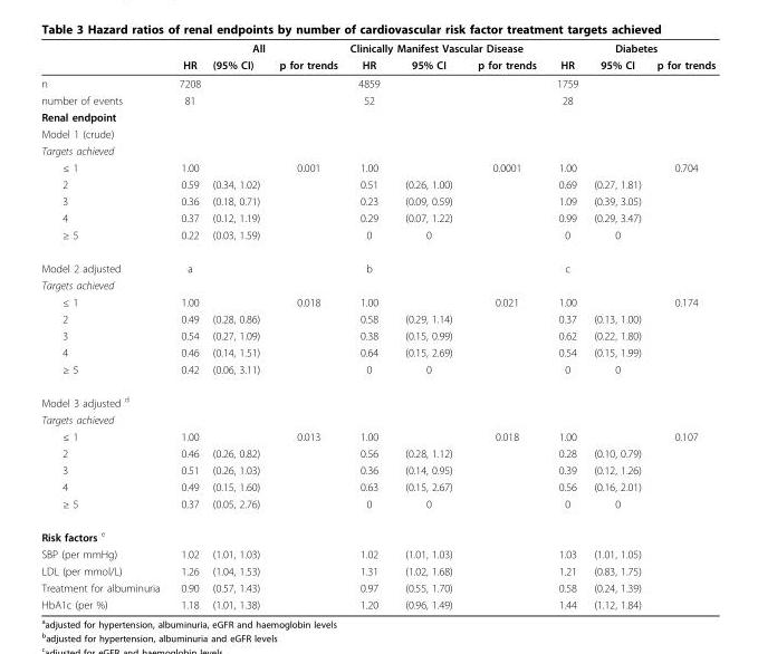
<table><thead><tr><td rowspan="2"></td><td colspan="3">All</td><td colspan="3">Clinically Manifest Vascular Disease</td><td colspan="3">Diabetes</td></tr><tr><td>HR</td><td>(95% CI)</td><td>p for trends</td><td>HR</td><td>95% CI</td><td>p for trends</td><td>HR</td><td>95% CI</td><td>p for trends</td></tr></thead><tbody><tr><td>n</td><td>7208</td><td></td><td></td><td>4859</td><td></td><td></td><td>1759</td><td></td><td></td></tr><tr><td>number of events</td><td>81</td><td></td><td></td><td>52</td><td></td><td></td><td>28</td><td></td><td></td></tr><tr><td colspan="10">Renal endpoint</td></tr><tr><td colspan="10">Model 1 (crude)</td></tr><tr><td colspan="10">Targets achieved</td></tr><tr><td>≤ 1</td><td>1.00</td><td></td><td>0.001</td><td>1.00</td><td></td><td>0.0001</td><td>1.00</td><td></td><td>0.704</td></tr><tr><td>2</td><td>0.59</td><td>(0.34, 1.02)</td><td></td><td>0.51</td><td>(0.26, 1.00)</td><td></td><td>0.69</td><td>(0.27, 1.81)</td><td></td></tr><tr><td>3</td><td>0.36</td><td>(0.18, 0.71)</td><td></td><td>0.23</td><td>(0.09, 0.59)</td><td></td><td>1.09</td><td>(0.39, 3.05)</td><td></td></tr><tr><td>4</td><td>0.37</td><td>(0.12, 1.19)</td><td></td><td>0.29</td><td>(0.07, 1.22)</td><td></td><td>0.99</td><td>(0.29, 3.47)</td><td></td></tr><tr><td>≥ 5</td><td>0.22</td><td>(0.03, 1.59)</td><td></td><td>0</td><td>0</td><td></td><td>0</td><td>0</td><td></td></tr><tr><td>Model 2 adjusted</td><td>a</td><td></td><td></td><td>b</td><td></td><td></td><td>c</td><td></td><td></td></tr><tr><td colspan="10">Targets achieved</td></tr><tr><td>≤ 1</td><td>1.00</td><td></td><td>0.018</td><td>1.00</td><td></td><td>0.021</td><td>1.00</td><td></td><td>0.174</td></tr><tr><td>2</td><td>0.49</td><td>(0.28, 0.86)</td><td></td><td>0.58</td><td>(0.29, 1.14)</td><td></td><td>0.37</td><td>(0.13, 1.00)</td><td></td></tr><tr><td>3</td><td>0.54</td><td>(0.27, 1.09)</td><td></td><td>0.38</td><td>(0.15, 0.99)</td><td></td><td>0.62</td><td>(0.22, 1.80)</td><td></td></tr><tr><td>4</td><td>0.46</td><td>(0.14, 1.51)</td><td></td><td>0.64</td><td>(0.15, 2.69)</td><td></td><td>0.54</td><td>(0.15, 1.99)</td><td></td></tr><tr><td>≥ 5</td><td>0.42</td><td>(0.06, 3.11)</td><td></td><td>0</td><td>0</td><td></td><td>0</td><td>0</td><td></td></tr><tr><td colspan="10">Model 3 adjusted <sup>d</sup></td></tr><tr><td colspan="10">Targets achieved</td></tr><tr><td>≤ 1</td><td>1.00</td><td></td><td>0.013</td><td>1.00</td><td></td><td>0.018</td><td>1.00</td><td></td><td>0.107</td></tr><tr><td>2</td><td>0.46</td><td>(0.26, 0.82)</td><td></td><td>0.56</td><td>(0.28, 1.12)</td><td></td><td>0.28</td><td>(0.10, 0.79)</td><td></td></tr><tr><td>3</td><td>0.51</td><td>(0.26, 1.03)</td><td></td><td>0.36</td><td>(0.14, 0.95)</td><td></td><td>0.39</td><td>(0.12, 1.26)</td><td></td></tr><tr><td>4</td><td>0.49</td><td>(0.15, 1.60)</td><td></td><td>0.63</td><td>(0.15, 2.67)</td><td></td><td>0.56</td><td>(0.16, 2.01)</td><td></td></tr><tr><td>≥ 5</td><td>0.37</td><td>(0.05, 2.76)</td><td></td><td>0</td><td>0</td><td></td><td>0</td><td>0</td><td></td></tr><tr><td colspan="10">Risk factors <sup>e</sup></td></tr><tr><td>SBP (per mmHg)</td><td>1.02</td><td>(1.01, 1.03)</td><td></td><td>1.02</td><td>(1.01, 1.03)</td><td></td><td>1.03</td><td>(1.01, 1.05)</td><td></td></tr><tr><td>LDL (per mmol/L)</td><td>1.26</td><td>(1.04, 1.53)</td><td></td><td>1.31</td><td>(1.02, 1.68)</td><td></td><td>1.21</td><td>(0.83, 1.75)</td><td></td></tr><tr><td>Treatment for albuminuria</td><td>0.90</td><td>(0.57, 1.43)</td><td></td><td>0.97</td><td>(0.55, 1.70)</td><td></td><td>0.58</td><td>(0.24, 1.39)</td><td></td></tr><tr><td>HbA1c (per %)</td><td>1.18</td><td>(1.01, 1.38)</td><td></td><td>1.20</td><td>(0.96, 1.49)</td><td></td><td>1.44</td><td>(1.12, 1.84)</td><td></td></tr></tbody></table>